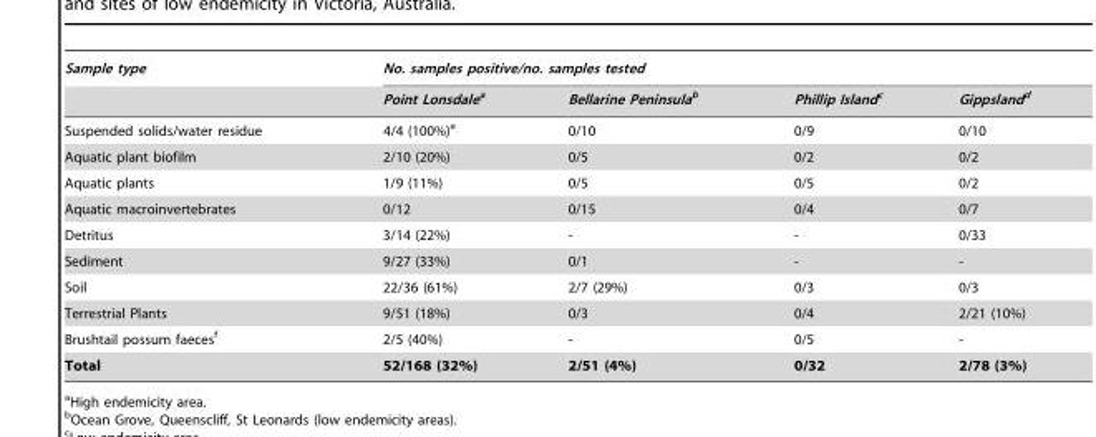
<table><thead><tr><td rowspan="2">Sample type</td><td colspan="4">No. samples positive/no. samples tested</td></tr><tr><td>Point Lonsdalea</td><td>Bellarine Peninsulab</td><td>Phillip Islandc</td><td>Gippslandd</td></tr></thead><tbody><tr><td>Suspended solids/water residue</td><td>4/4 (100%)<sup>e</sup></td><td>0/10</td><td>0/9</td><td>0/10</td></tr><tr><td>Aquatic plant biofilm</td><td>2/10 (20%)</td><td>0/5</td><td>0/2</td><td>0/2</td></tr><tr><td>Aquatic plants</td><td>1/9 (11%)</td><td>0/5</td><td>0/5</td><td>0/2</td></tr><tr><td>Aquatic macroinvertebrates</td><td>0/12</td><td>0/15</td><td>0/4</td><td>0/7</td></tr><tr><td>Detritus</td><td>3/14 (22%)</td><td>-</td><td>-</td><td>0/33</td></tr><tr><td>Sediment</td><td>9/27 (33%)</td><td>0/1</td><td>-</td><td>-</td></tr><tr><td>Soil</td><td>22/36 (61%)</td><td>2/7 (29%)</td><td>0/3</td><td>0/3</td></tr><tr><td>Terrestrial Plants</td><td>9/51 (18%)</td><td>0/3</td><td>0/4</td><td>2/21 (10%)</td></tr><tr><td>Brushtail possum faeces<sup>f</sup></td><td>2/5 (40%)</td><td>-</td><td>0/5</td><td>-</td></tr><tr><td>Total</td><td>52/168 (32%)</td><td>2/51 (4%)</td><td>0/32</td><td>2/78 (3%)</td></tr></tbody></table>